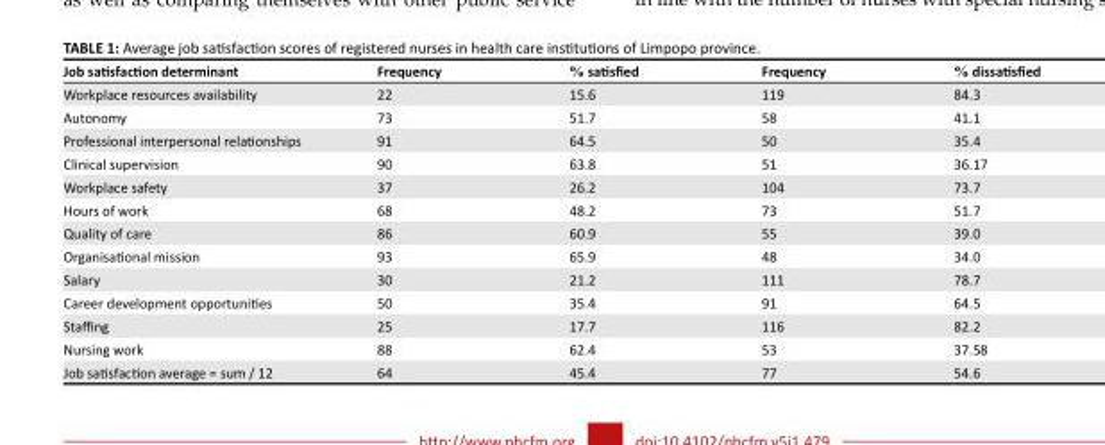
<table><thead><tr><td>Job satisfaction determinant</td><td>Frequency</td><td>% satisfied</td><td>Frequency</td><td>% dissatisfied</td></tr></thead><tbody><tr><td>Workplace resources availability</td><td>22</td><td>15.6</td><td>119</td><td>84.3</td></tr><tr><td>Autonomy</td><td>73</td><td>51.7</td><td>58</td><td>41.1</td></tr><tr><td>Professional interpersonal relationships</td><td>91</td><td>64.5</td><td>50</td><td>35.4</td></tr><tr><td>Clinical supervision</td><td>90</td><td>63.8</td><td>51</td><td>36.17</td></tr><tr><td>Workplace safety</td><td>37</td><td>26.2</td><td>104</td><td>73.7</td></tr><tr><td>Hours of work</td><td>68</td><td>48.2</td><td>73</td><td>51.7</td></tr><tr><td>Quality of care</td><td>86</td><td>60.9</td><td>55</td><td>39.0</td></tr><tr><td>Organisational mission</td><td>93</td><td>65.9</td><td>48</td><td>34.0</td></tr><tr><td>Salary</td><td>30</td><td>21.2</td><td>111</td><td>78.7</td></tr><tr><td>Career development opportunities</td><td>50</td><td>35.4</td><td>91</td><td>64.5</td></tr><tr><td>Staffing</td><td>25</td><td>17.7</td><td>116</td><td>82.2</td></tr><tr><td>Nursing work</td><td>88</td><td>62.4</td><td>53</td><td>37.58</td></tr><tr><td>Job satisfaction average = sum / 12</td><td>64</td><td>45.4</td><td>77</td><td>54.6</td></tr></tbody></table>